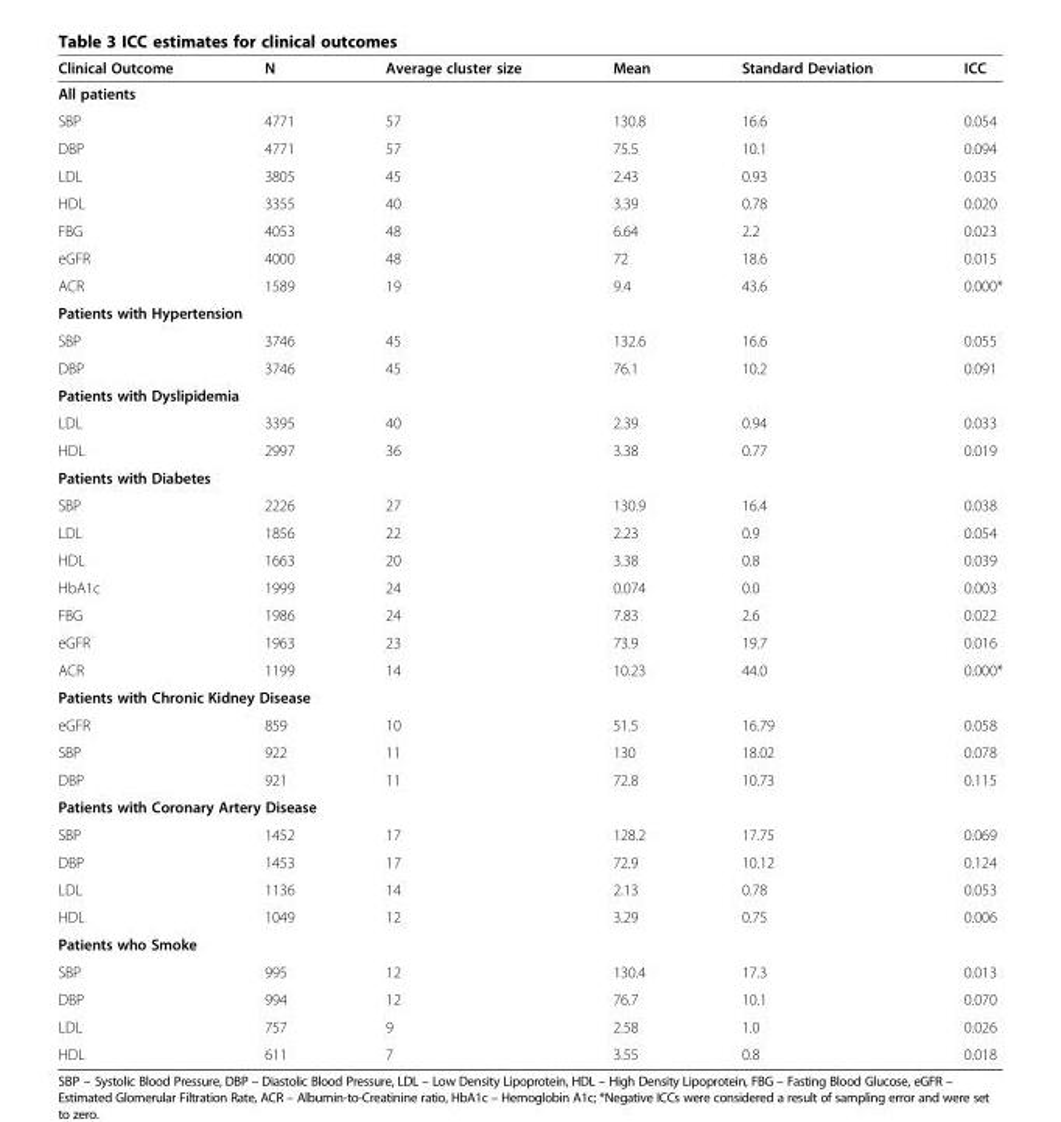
<table><thead><tr><td>Clinical Outcome</td><td>N</td><td>Average cluster size</td><td>Mean</td><td>Standard Deviation</td><td>ICC</td></tr></thead><tbody><tr><td colspan="6">All patients</td></tr><tr><td>SBP</td><td>4771</td><td>57</td><td>130.8</td><td>16.6</td><td>0.054</td></tr><tr><td>DBP</td><td>4771</td><td>57</td><td>75.5</td><td>10.1</td><td>0.094</td></tr><tr><td>LDL</td><td>3805</td><td>45</td><td>2.43</td><td>0.93</td><td>0.035</td></tr><tr><td>HDL</td><td>3355</td><td>40</td><td>3.39</td><td>0.78</td><td>0.020</td></tr><tr><td>FBG</td><td>4053</td><td>48</td><td>6.64</td><td>2.2</td><td>0.023</td></tr><tr><td>eGFR</td><td>4000</td><td>48</td><td>72</td><td>18.6</td><td>0.015</td></tr><tr><td>ACR</td><td>1589</td><td>19</td><td>9.4</td><td>43.6</td><td>0.000*</td></tr><tr><td colspan="6">Patients with Hypertension</td></tr><tr><td>SBP</td><td>3746</td><td>45</td><td>132.6</td><td>16.6</td><td>0.055</td></tr><tr><td>DBP</td><td>3746</td><td>45</td><td>76.1</td><td>10.2</td><td>0.091</td></tr><tr><td colspan="6">Patients with Dyslipidemia</td></tr><tr><td>LDL</td><td>3395</td><td>40</td><td>2.39</td><td>0.94</td><td>0.033</td></tr><tr><td>HDL</td><td>2997</td><td>36</td><td>3.38</td><td>0.77</td><td>0.019</td></tr><tr><td colspan="6">Patients with Diabetes</td></tr><tr><td>SBP</td><td>2226</td><td>27</td><td>130.9</td><td>16.4</td><td>0.038</td></tr><tr><td>LDL</td><td>1856</td><td>22</td><td>2.23</td><td>0.9</td><td>0.054</td></tr><tr><td>HDL</td><td>1663</td><td>20</td><td>3.38</td><td>0.8</td><td>0.039</td></tr><tr><td>HbA1c</td><td>1999</td><td>24</td><td>0.074</td><td>0.0</td><td>0.003</td></tr><tr><td>FBG</td><td>1986</td><td>24</td><td>7.83</td><td>2.6</td><td>0.022</td></tr><tr><td>eGFR</td><td>1963</td><td>23</td><td>73.9</td><td>19.7</td><td>0.016</td></tr><tr><td>ACR</td><td>1199</td><td>14</td><td>10.23</td><td>44.0</td><td>0.000*</td></tr><tr><td colspan="6">Patients with Chronic Kidney Disease</td></tr><tr><td>eGFR</td><td>859</td><td>10</td><td>51.5</td><td>16.79</td><td>0.058</td></tr><tr><td>SBP</td><td>922</td><td>11</td><td>130</td><td>18.02</td><td>0.078</td></tr><tr><td>DBP</td><td>921</td><td>11</td><td>72.8</td><td>10.73</td><td>0.115</td></tr><tr><td colspan="6">Patients with Coronary Artery Disease</td></tr><tr><td>SBP</td><td>1452</td><td>17</td><td>128.2</td><td>17.75</td><td>0.069</td></tr><tr><td>DBP</td><td>1453</td><td>17</td><td>72.9</td><td>10.12</td><td>0.124</td></tr><tr><td>LDL</td><td>1136</td><td>14</td><td>2.13</td><td>0.78</td><td>0.053</td></tr><tr><td>HDL</td><td>1049</td><td>12</td><td>3.29</td><td>0.75</td><td>0.006</td></tr><tr><td colspan="6">Patients who Smoke</td></tr><tr><td>SBP</td><td>995</td><td>12</td><td>130.4</td><td>17.3</td><td>0.013</td></tr><tr><td>DBP</td><td>994</td><td>12</td><td>76.7</td><td>10.1</td><td>0.070</td></tr><tr><td>LDL</td><td>757</td><td>9</td><td>2.58</td><td>1.0</td><td>0.026</td></tr><tr><td>HDL</td><td>611</td><td>7</td><td>3.55</td><td>0.8</td><td>0.018</td></tr></tbody></table>